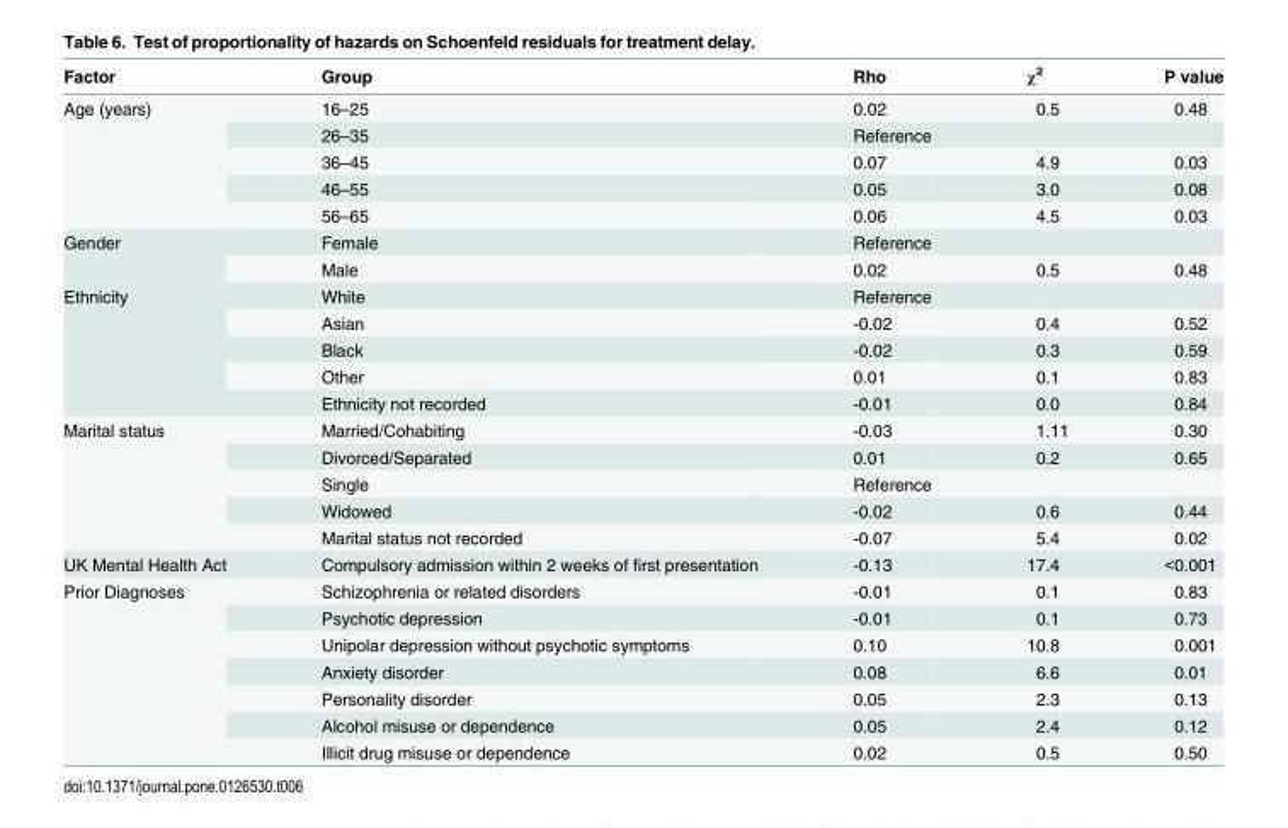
<table><thead><tr><td>Factor</td><td>Group</td><td>Rho</td><td>χ<sup>2</sup></td><td>P value</td></tr></thead><tbody><tr><td rowspan="5">Age (years)</td><td>16–25</td><td>0.02</td><td>0.5</td><td>0.48</td></tr><tr><td>26–35</td><td>Reference</td><td></td><td></td></tr><tr><td>36–45</td><td>0.07</td><td>4.9</td><td>0.03</td></tr><tr><td>46–55</td><td>0.05</td><td>3.0</td><td>0.08</td></tr><tr><td>56–65</td><td>0.06</td><td>4.5</td><td>0.03</td></tr><tr><td rowspan="2">Gender</td><td>Female</td><td>Reference</td><td></td><td></td></tr><tr><td>Male</td><td>0.02</td><td>0.5</td><td>0.48</td></tr><tr><td rowspan="5">Ethnicity</td><td>White</td><td>Reference</td><td></td><td></td></tr><tr><td>Asian</td><td>-0.02</td><td>0.4</td><td>0.52</td></tr><tr><td>Black</td><td>-0.02</td><td>0.3</td><td>0.59</td></tr><tr><td>Other</td><td>0.01</td><td>0.1</td><td>0.83</td></tr><tr><td>Ethnicity not recorded</td><td>-0.01</td><td>0.0</td><td>0.84</td></tr><tr><td rowspan="5">Marital status</td><td>Married/Cohabiting</td><td>-0.03</td><td>1.11</td><td>0.30</td></tr><tr><td>Divorced/Separated</td><td>0.01</td><td>0.2</td><td>0.65</td></tr><tr><td>Single</td><td>Reference</td><td></td><td></td></tr><tr><td>Widowed</td><td>-0.02</td><td>0.6</td><td>0.44</td></tr><tr><td>Marital status not recorded</td><td>-0.07</td><td>5.4</td><td>0.02</td></tr><tr><td>UK Mental Health Act</td><td>Compulsory admission within 2 weeks of first presentation</td><td>-0.13</td><td>17.4</td><td>&lt;0.001</td></tr><tr><td rowspan="7">Prior Diagnoses</td><td>Schizophrenia or related disorders</td><td>-0.01</td><td>0.1</td><td>0.83</td></tr><tr><td>Psychotic depression</td><td>-0.01</td><td>0.1</td><td>0.73</td></tr><tr><td>Unipolar depression without psychotic symptoms</td><td>0.10</td><td>10.8</td><td>0.001</td></tr><tr><td>Anxiety disorder</td><td>0.08</td><td>6.6</td><td>0.01</td></tr><tr><td>Personality disorder</td><td>0.05</td><td>2.3</td><td>0.13</td></tr><tr><td>Alcohol misuse or dependence</td><td>0.05</td><td>2.4</td><td>0.12</td></tr><tr><td>Illicit drug misuse or dependence</td><td>0.02</td><td>0.5</td><td>0.50</td></tr></tbody></table>